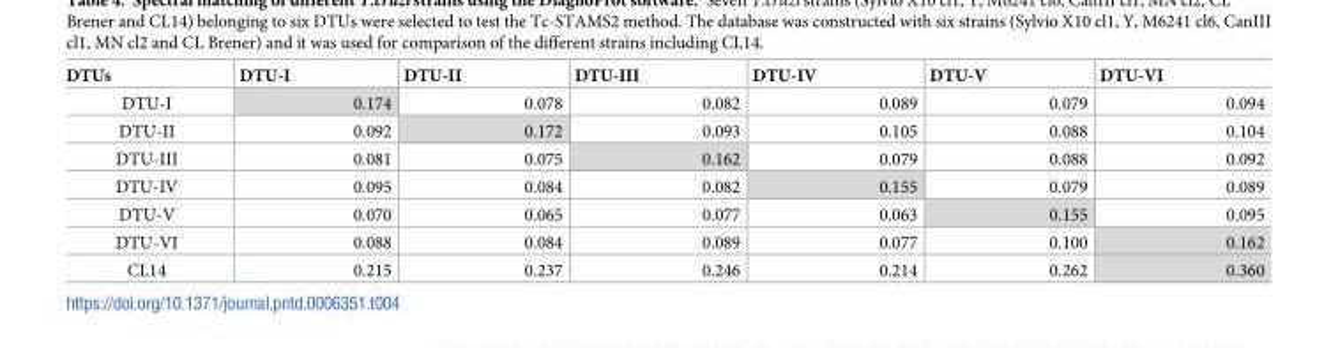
<table><thead><tr><td>DTUs</td><td>DTU-I</td><td>DTU-II</td><td>DTU-III</td><td>DTU-IV</td><td>DTU-V</td><td>DTU-VI</td></tr></thead><tbody><tr><td>DTU-I</td><td>0.174</td><td>0.078</td><td>0.082</td><td>0.089</td><td>0.079</td><td>0.094</td></tr><tr><td>DTU-II</td><td>0.092</td><td>0.172</td><td>0.093</td><td>0.105</td><td>0.088</td><td>0.104</td></tr><tr><td>DTU-III</td><td>0.081</td><td>0.075</td><td>0.162</td><td>0.079</td><td>0.088</td><td>0.092</td></tr><tr><td>DTU-IV</td><td>0.095</td><td>0.084</td><td>0.082</td><td>0.155</td><td>0.079</td><td>0.089</td></tr><tr><td>DTU-V</td><td>0.070</td><td>0.065</td><td>0.077</td><td>0.063</td><td>0.155</td><td>0.095</td></tr><tr><td>DTU-VI</td><td>0.088</td><td>0.084</td><td>0.089</td><td>0.077</td><td>0.100</td><td>0.162</td></tr><tr><td>CL14</td><td>0.215</td><td>0.237</td><td>0.246</td><td>0.214</td><td>0.262</td><td>0.360</td></tr></tbody></table>